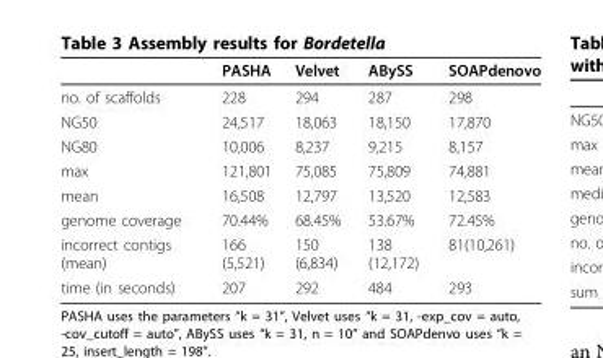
<table><thead><tr><td></td><td>PASHA</td><td>Velvet</td><td>ABySS</td><td>SOAPdenovo</td></tr></thead><tbody><tr><td>no. of scaffolds</td><td>228</td><td>294</td><td>287</td><td>298</td></tr><tr><td>NG50</td><td>24,517</td><td>18,063</td><td>18,150</td><td>17,870</td></tr><tr><td>NG80</td><td>10,006</td><td>8,237</td><td>9,215</td><td>8,157</td></tr><tr><td>max</td><td>121,801</td><td>75,085</td><td>75,809</td><td>74,881</td></tr><tr><td>mean</td><td>16,508</td><td>12,797</td><td>13,520</td><td>12,583</td></tr><tr><td>genome coverage</td><td>70.44%</td><td>68.45%</td><td>53.67%</td><td>72.45%</td></tr><tr><td>incorrect contigs (mean)</td><td>166 (5,521)</td><td>150 (6,834)</td><td>138 (12,172)</td><td>81(10,261)</td></tr><tr><td>time (in seconds)</td><td>207</td><td>292</td><td>484</td><td>293</td></tr></tbody></table>